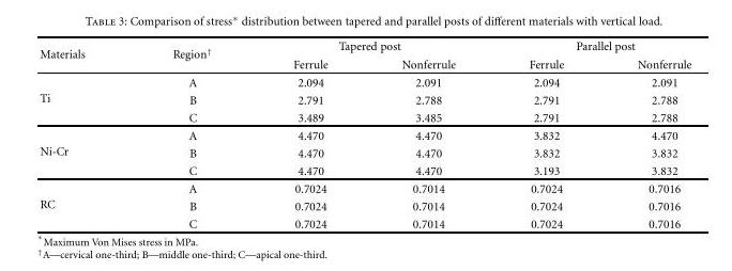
<table><thead><tr><td rowspan="2">Materials</td><td rowspan="2">Region<sup>†</sup></td><td colspan="2">Tapered post</td><td colspan="2">Parallel post</td></tr><tr><td>Ferrule</td><td>Nonferrule</td><td>Ferrule</td><td>Nonferrule</td></tr></thead><tbody><tr><td rowspan="3">Ti</td><td>A</td><td>2.094</td><td>2.091</td><td>2.094</td><td>2.091</td></tr><tr><td>B</td><td>2.791</td><td>2.788</td><td>2.791</td><td>2.788</td></tr><tr><td>C</td><td>3.489</td><td>3.485</td><td>2.791</td><td>2.788</td></tr><tr><td rowspan="3">Ni-Cr</td><td>A</td><td>4.470</td><td>4.470</td><td>3.832</td><td>4.470</td></tr><tr><td>B</td><td>4.470</td><td>4.470</td><td>3.832</td><td>3.832</td></tr><tr><td>C</td><td>4.470</td><td>4.470</td><td>3.193</td><td>3.832</td></tr><tr><td rowspan="3">RC</td><td>A</td><td>0.7024</td><td>0.7014</td><td>0.7024</td><td>0.7016</td></tr><tr><td>B</td><td>0.7024</td><td>0.7014</td><td>0.7024</td><td>0.7016</td></tr><tr><td>C</td><td>0.7024</td><td>0.7014</td><td>0.7024</td><td>0.7016</td></tr></tbody></table>